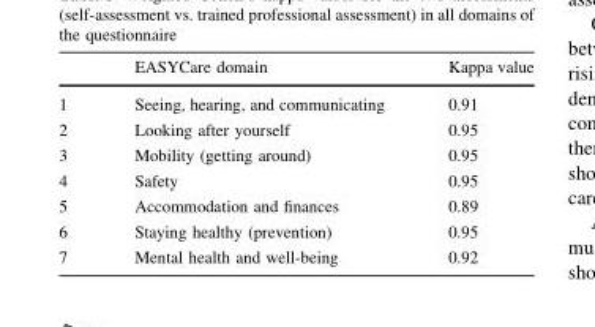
<table><thead><tr><td></td><td>EASYCare domain</td><td>Kappa value</td></tr></thead><tbody><tr><td>1</td><td>Seeing, hearing, and communicating</td><td>0.91</td></tr><tr><td>2</td><td>Looking after yourself</td><td>0.95</td></tr><tr><td>3</td><td>Mobility (getting around)</td><td>0.95</td></tr><tr><td>4</td><td>Safety</td><td>0.95</td></tr><tr><td>5</td><td>Accommodation and finances</td><td>0.89</td></tr><tr><td>6</td><td>Staying healthy (prevention)</td><td>0.95</td></tr><tr><td>7</td><td>Mental health and well-being</td><td>0.92</td></tr></tbody></table>